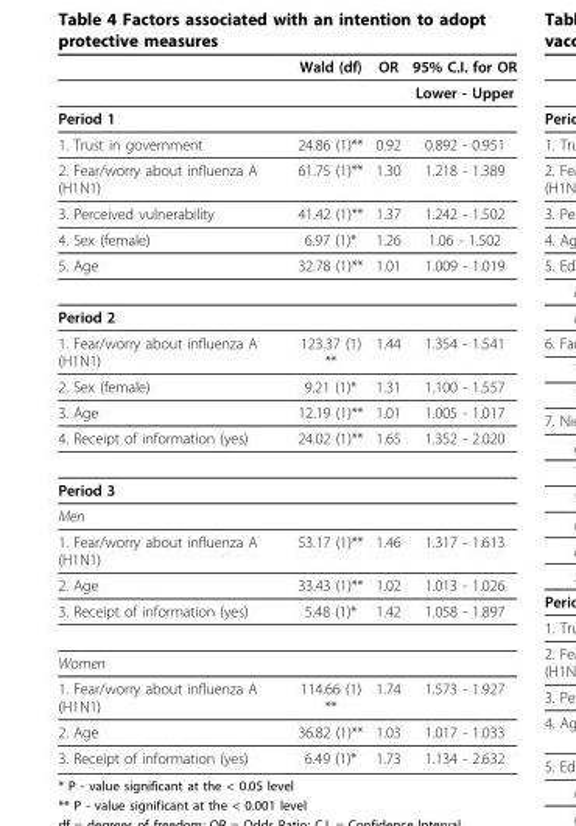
<table><thead><tr><td></td><td>Wald (df)</td><td>OR</td><td>95% C.I. for OR</td></tr></thead><tbody><tr><td></td><td></td><td></td><td>Lower - Upper</td></tr><tr><td colspan="4">Period 1</td></tr><tr><td>1. Trust in government</td><td>24.86 (1)**</td><td>0.92</td><td>0.892 - 0.951</td></tr><tr><td>2. Fear/worry about influenza A (H1N1)</td><td>61.75 (1)**</td><td>1.30</td><td>1.218 - 1.389</td></tr><tr><td>3. Perceived vulnerability</td><td>41.42 (1)**</td><td>1.37</td><td>1.242 - 1.502</td></tr><tr><td>4. Sex (female)</td><td>6.97 (1)*</td><td>1.26</td><td>1.06 - 1.502</td></tr><tr><td>5. Age</td><td>32.78 (1)**</td><td>1.01</td><td>1.009 - 1.019</td></tr><tr><td colspan="4">Period 2</td></tr><tr><td>1. Fear/worry about influenza A (H1N1)</td><td>123.37 (1) **</td><td>1.44</td><td>1.354 - 1.541</td></tr><tr><td>2. Sex (female)</td><td>9.21 (1)*</td><td>1.31</td><td>1.100 - 1.557</td></tr><tr><td>3. Age</td><td>12.19 (1)**</td><td>1.01</td><td>1.005 - 1.017</td></tr><tr><td>4. Receipt of information (yes)</td><td>24.02 (1)**</td><td>1.65</td><td>1.352 - 2.020</td></tr><tr><td colspan="4">Period 3</td></tr><tr><td colspan="4">Men</td></tr><tr><td>1. Fear/worry about influenza A (H1N1)</td><td>53.17 (1)**</td><td>1.46</td><td>1.317 - 1.613</td></tr><tr><td>2. Age</td><td>33.43 (1)**</td><td>1.02</td><td>1.013 - 1.026</td></tr><tr><td>3. Receipt of information (yes)</td><td>5.48 (1)*</td><td>1.42</td><td>1.058 - 1.897</td></tr><tr><td colspan="4">Women</td></tr><tr><td>1. Fear/worry about influenza A (H1N1)</td><td>114.66 (1) **</td><td>1.74</td><td>1.573 - 1.927</td></tr><tr><td>2. Age</td><td>36.82 (1)**</td><td>1.03</td><td>1.017 - 1.033</td></tr><tr><td>3. Receipt of information (yes)</td><td>6.49 (1)*</td><td>1.73</td><td>1.134 - 2.632</td></tr></tbody></table>